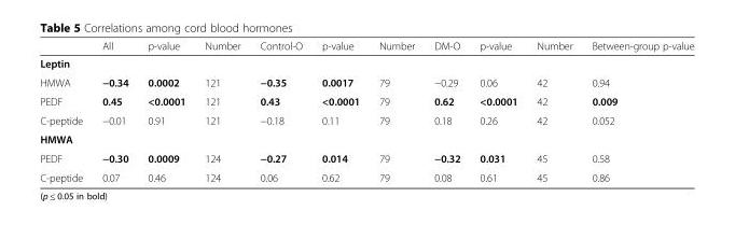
<table><thead><tr><td></td><td>All</td><td>p-value</td><td>Number</td><td>Control-O</td><td>p-value</td><td>Number</td><td>DM-O</td><td>p-value</td><td>Number</td><td>Between-group p-value</td></tr></thead><tbody><tr><td colspan="11">Leptin</td></tr><tr><td>HMWA</td><td>−0.34</td><td>0.0002</td><td>121</td><td>−0.35</td><td>0.0017</td><td>79</td><td>−0.29</td><td>0.06</td><td>42</td><td>0.94</td></tr><tr><td>PEDF</td><td>0.45</td><td>&lt;0.0001</td><td>121</td><td>0.43</td><td>&lt;0.0001</td><td>79</td><td>0.62</td><td>&lt;0.0001</td><td>42</td><td>0.009</td></tr><tr><td>C-peptide</td><td>−0.01</td><td>0.91</td><td>121</td><td>−0.18</td><td>0.11</td><td>79</td><td>0.18</td><td>0.26</td><td>42</td><td>0.052</td></tr><tr><td colspan="11">HMWA</td></tr><tr><td>PEDF</td><td>−0.30</td><td>0.0009</td><td>124</td><td>−0.27</td><td>0.014</td><td>79</td><td>−0.32</td><td>0.031</td><td>45</td><td>0.58</td></tr><tr><td>C-peptide</td><td>0.07</td><td>0.46</td><td>124</td><td>0.06</td><td>0.62</td><td>79</td><td>0.08</td><td>0.61</td><td>45</td><td>0.86</td></tr></tbody></table>